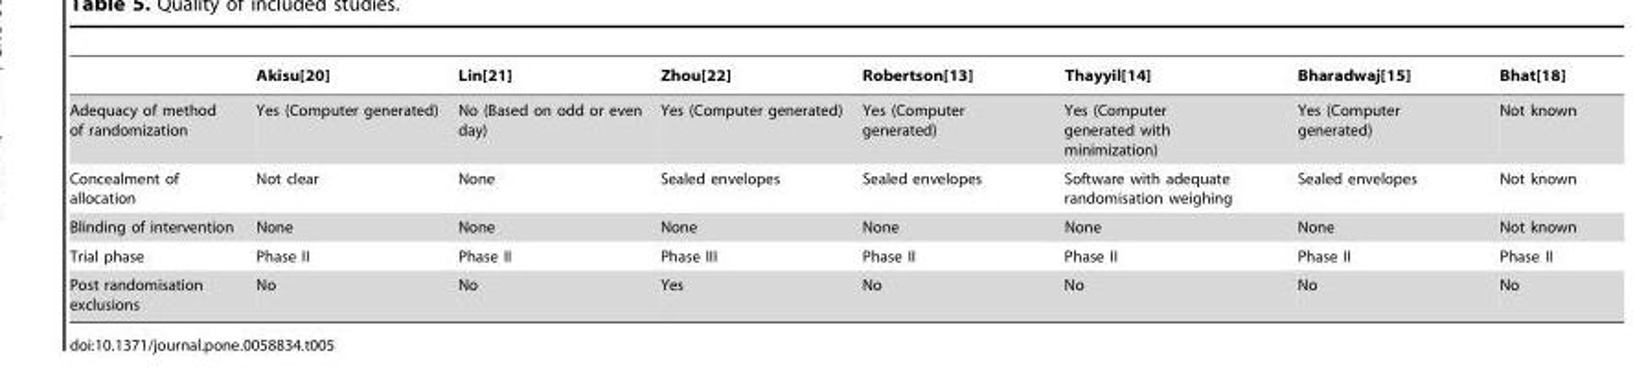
<table><thead><tr><td></td><td>Akisu[20]</td><td>Lin[21]</td><td>Zhou[22]</td><td>Robertson[13]</td><td>Thayyil[14]</td><td>Bharadwaj[15]</td><td>Bhat[18]</td></tr></thead><tbody><tr><td>Adequacy of method of randomization</td><td>Yes (Computer generated)</td><td>No (Based on odd or even day)</td><td>Yes (Computer generated)</td><td>Yes (Computer generated)</td><td>Yes (Computer generated with minimization)</td><td>Yes (Computer generated)</td><td>Not known</td></tr><tr><td>Concealment of allocation</td><td>Not clear</td><td>None</td><td>Sealed envelopes</td><td>Sealed envelopes</td><td>Software with adequate randomisation weighing</td><td>Sealed envelopes</td><td>Not known</td></tr><tr><td>Blinding of intervention</td><td>None</td><td>None</td><td>None</td><td>None</td><td>None</td><td>None</td><td>Not known</td></tr><tr><td>Trial phase</td><td>Phase II</td><td>Phase II</td><td>Phase III</td><td>Phase II</td><td>Phase II</td><td>Phase II</td><td>Phase II</td></tr><tr><td>Post randomisation exclusions</td><td>No</td><td>No</td><td>Yes</td><td>No</td><td>No</td><td>No</td><td>No</td></tr></tbody></table>